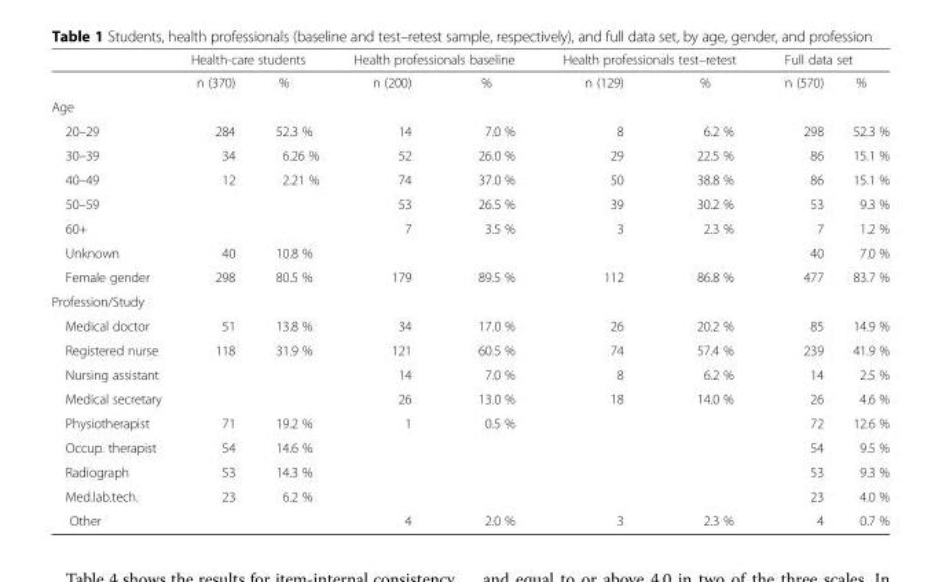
<table><thead><tr><td rowspan="2"></td><td colspan="2">Health-care students</td><td colspan="2">Health professionals baseline</td><td colspan="2">Health professionals test–retest</td><td colspan="2">Full data set</td></tr><tr><td>n (370)</td><td>%</td><td>n (200)</td><td>%</td><td>n (129)</td><td>%</td><td>n (570)</td><td>%</td></tr></thead><tbody><tr><td colspan="9">Age</td></tr><tr><td>20–29</td><td>284</td><td>52.3 %</td><td>14</td><td>7.0 %</td><td>8</td><td>6.2 %</td><td>298</td><td>52.3 %</td></tr><tr><td>30–39</td><td>34</td><td>6.26 %</td><td>52</td><td>26.0 %</td><td>29</td><td>22.5 %</td><td>86</td><td>15.1 %</td></tr><tr><td>40–49</td><td>12</td><td>2.21 %</td><td>74</td><td>37.0 %</td><td>50</td><td>38.8 %</td><td>86</td><td>15.1 %</td></tr><tr><td>50–59</td><td></td><td></td><td>53</td><td>26.5 %</td><td>39</td><td>30.2 %</td><td>53</td><td>9.3 %</td></tr><tr><td>60+</td><td></td><td></td><td>7</td><td>3.5 %</td><td>3</td><td>2.3 %</td><td>7</td><td>1.2 %</td></tr><tr><td>Unknown</td><td>40</td><td>10.8 %</td><td></td><td></td><td></td><td></td><td>40</td><td>7.0 %</td></tr><tr><td>Female gender</td><td>298</td><td>80.5 %</td><td>179</td><td>89.5 %</td><td>112</td><td>86.8 %</td><td>477</td><td>83.7 %</td></tr><tr><td colspan="9">Profession/Study</td></tr><tr><td>Medical doctor</td><td>51</td><td>13.8 %</td><td>34</td><td>17.0 %</td><td>26</td><td>20.2 %</td><td>85</td><td>14.9 %</td></tr><tr><td>Registered nurse</td><td>118</td><td>31.9 %</td><td>121</td><td>60.5 %</td><td>74</td><td>57.4 %</td><td>239</td><td>41.9 %</td></tr><tr><td>Nursing assistant</td><td></td><td></td><td>14</td><td>7.0 %</td><td>8</td><td>6.2 %</td><td>14</td><td>2.5 %</td></tr><tr><td>Medical secretary</td><td></td><td></td><td>26</td><td>13.0 %</td><td>18</td><td>14.0 %</td><td>26</td><td>4.6 %</td></tr><tr><td>Physiotherapist</td><td>71</td><td>19.2 %</td><td>1</td><td>0.5 %</td><td></td><td></td><td>72</td><td>12.6 %</td></tr><tr><td>Occup. therapist</td><td>54</td><td>14.6 %</td><td></td><td></td><td></td><td></td><td>54</td><td>9.5 %</td></tr><tr><td>Radiograph</td><td>53</td><td>14.3 %</td><td></td><td></td><td></td><td></td><td>53</td><td>9.3 %</td></tr><tr><td>Med.lab.tech.</td><td>23</td><td>6.2 %</td><td></td><td></td><td></td><td></td><td>23</td><td>4.0 %</td></tr><tr><td>Other</td><td></td><td></td><td>4</td><td>2.0 %</td><td>3</td><td>2.3 %</td><td>4</td><td>0.7 %</td></tr></tbody></table>